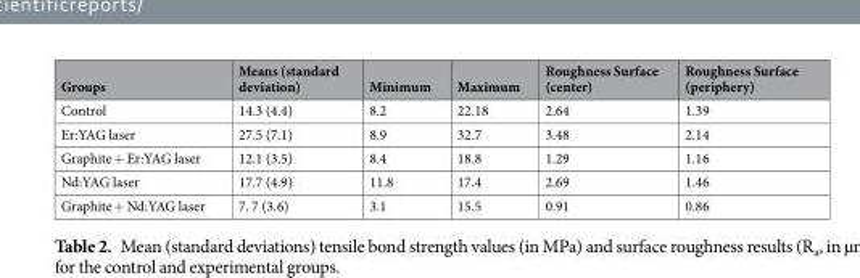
<table><thead><tr><td>Groups</td><td>Means (standard deviation)</td><td>Minimum</td><td>Maximum</td><td>Roughness Surface (center)</td><td>Roughness Surface (periphery)</td></tr></thead><tbody><tr><td>Control</td><td>14.3 (4.4)</td><td>8.2</td><td>22.18</td><td>2.64</td><td>1.39</td></tr><tr><td>Er:YAG laser</td><td>27.5 (7.1)</td><td>8.9</td><td>32.7</td><td>3.48</td><td>2.14</td></tr><tr><td>Graphite + Er:YAG laser</td><td>12.1 (3.5)</td><td>8.4</td><td>18.8</td><td>1.29</td><td>1.16</td></tr><tr><td>Nd:YAG laser</td><td>17.7 (4.9)</td><td>11.8</td><td>17.4</td><td>2.69</td><td>1.46</td></tr><tr><td>Graphite + Nd:YAG laser</td><td>7. 7 (3.6)</td><td>3.1</td><td>15.5</td><td>0.91</td><td>0.86</td></tr></tbody></table>